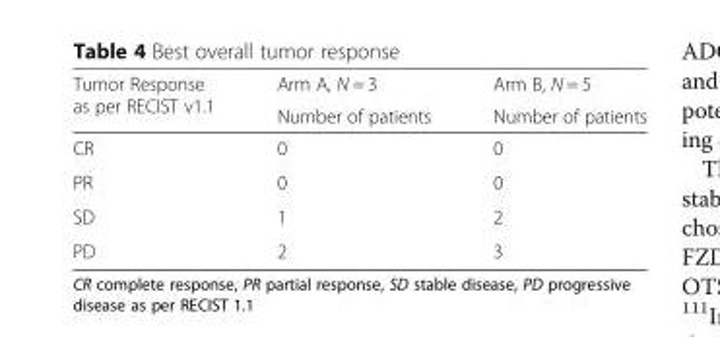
<table><thead><tr><td rowspan="2">Tumor Response as per RECIST v1.1</td><td rowspan="2">Arm A, N = 3 Number of patients</td><td rowspan="2">Arm B, N = 5 Number of patients</td></tr><tr></tr></thead><tbody><tr><td>CR</td><td>0</td><td>0</td></tr><tr><td>PR</td><td>0</td><td>0</td></tr><tr><td>SD</td><td>1</td><td>2</td></tr><tr><td>PD</td><td>2</td><td>3</td></tr></tbody></table>